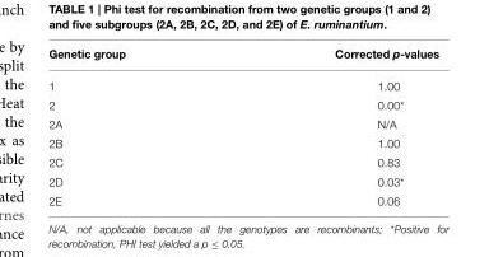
<table><thead><tr><td>Genetic group</td><td>Corrected p-values</td></tr></thead><tbody><tr><td>1</td><td>1.00</td></tr><tr><td>2</td><td>0.00*</td></tr><tr><td>2A</td><td>N/A</td></tr><tr><td>2B</td><td>1.00</td></tr><tr><td>2C</td><td>0.83</td></tr><tr><td>2D</td><td>0.03*</td></tr><tr><td>2E</td><td>0.06</td></tr></tbody></table>